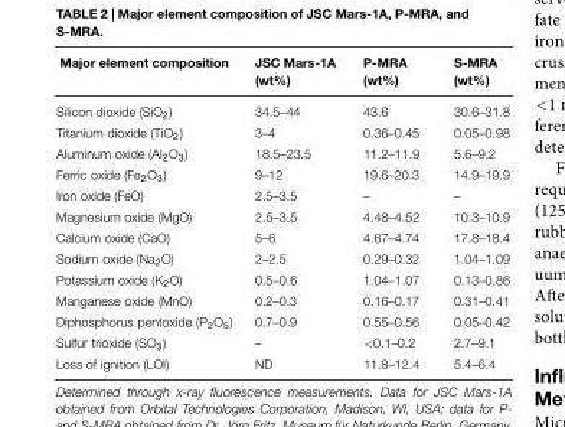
<table><thead><tr><td>Major element composition</td><td>JSC Mars-1A (wt%)</td><td>P-MRA (wt%)</td><td>S-MRA (wt%)</td></tr></thead><tbody><tr><td>Silicon dioxide (SiO<sub>2</sub>)</td><td>34.5–44</td><td>43.6</td><td>30.6–31.8</td></tr><tr><td>Titanium dioxide (TiO<sub>2</sub>)</td><td>3–4</td><td>0.36–0.45</td><td>0.05–0.98</td></tr><tr><td>Aluminum oxide (Al<sub>2</sub>O<sub>3</sub>)</td><td>18.5–23.5</td><td>11.2–11.9</td><td>5.6–9.2</td></tr><tr><td>Ferric oxide (Fe<sub>2</sub>O<sub>3</sub>)</td><td>9–12</td><td>19.6–20.3</td><td>14.9–19.9</td></tr><tr><td>Iron oxide (FeO)</td><td>2.5–3.5</td><td>–</td><td>–</td></tr><tr><td>Magnesium oxide (MgO)</td><td>2.5–3.5</td><td>4.48–4.52</td><td>10.3–10.9</td></tr><tr><td>Calcium oxide (CaO)</td><td>5–6</td><td>4.67–4.74</td><td>17.8–18.4</td></tr><tr><td>Sodium oxide (Na<sub>2</sub>O)</td><td>2–2.5</td><td>0.29–0.32</td><td>1.04–1.09</td></tr><tr><td>Potassium oxide (K<sub>2</sub>O)</td><td>0.5–0.6</td><td>1.04–1.07</td><td>0.13–0.86</td></tr><tr><td>Manganese oxide (MnO)</td><td>0.2–0.3</td><td>0.16–0.17</td><td>0.31–0.41</td></tr><tr><td>Diphosphorus pentoxide (P<sub>2</sub>O<sub>5</sub>)</td><td>0.7–0.9</td><td>0.55–0.56</td><td>0.05–0.42</td></tr><tr><td>Sulfur trioxide (SO<sub>3</sub>)</td><td>–</td><td>&lt;0.1–0.2</td><td>2.7–9.1</td></tr><tr><td>Loss of ignition (LOI)</td><td>ND</td><td>11.8–12.4</td><td>5.4–6.4</td></tr></tbody></table>